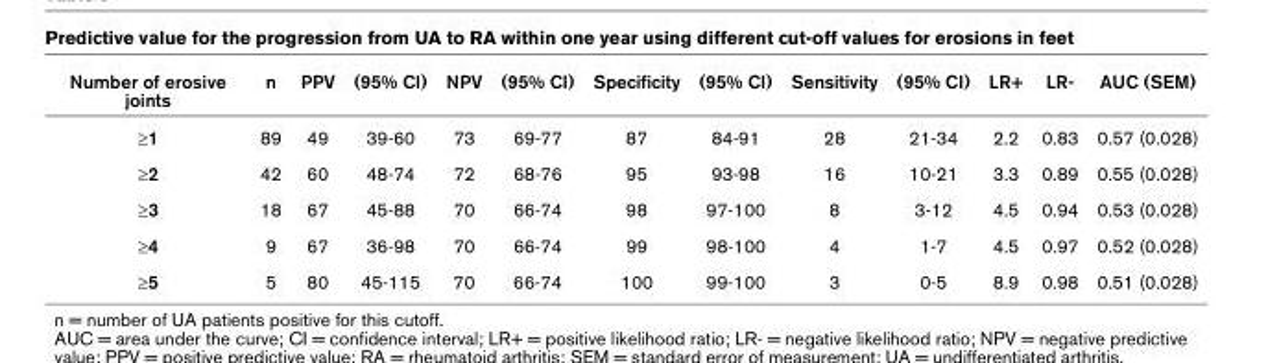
<table><thead><tr><td>Number of erosive joints</td><td>n</td><td>PPV</td><td>(95% CI)</td><td>NPV</td><td>(95% CI)</td><td>Specificity</td><td>(95% CI)</td><td>Sensitivity</td><td>(95% CI)</td><td>LR+</td><td>LR-</td><td>AUC (SEM)</td></tr></thead><tbody><tr><td>≥1</td><td>89</td><td>49</td><td>39-60</td><td>73</td><td>69-77</td><td>87</td><td>84-91</td><td>28</td><td>21-34</td><td>2.2</td><td>0.83</td><td>0.57 (0.028)</td></tr><tr><td>≥2</td><td>42</td><td>60</td><td>48-74</td><td>72</td><td>68-76</td><td>95</td><td>93-98</td><td>16</td><td>10-21</td><td>3.3</td><td>0.89</td><td>0.55 (0.028)</td></tr><tr><td>≥3</td><td>18</td><td>67</td><td>45-88</td><td>70</td><td>66-74</td><td>98</td><td>97-100</td><td>8</td><td>3-12</td><td>4.5</td><td>0.94</td><td>0.53 (0.028)</td></tr><tr><td>≥4</td><td>9</td><td>67</td><td>36-98</td><td>70</td><td>66-74</td><td>99</td><td>98-100</td><td>4</td><td>1-7</td><td>4.5</td><td>0.97</td><td>0.52 (0.028)</td></tr><tr><td>≥5</td><td>5</td><td>80</td><td>45-115</td><td>70</td><td>66-74</td><td>100</td><td>99-100</td><td>3</td><td>0-5</td><td>8.9</td><td>0.98</td><td>0.51 (0.028)</td></tr></tbody></table>